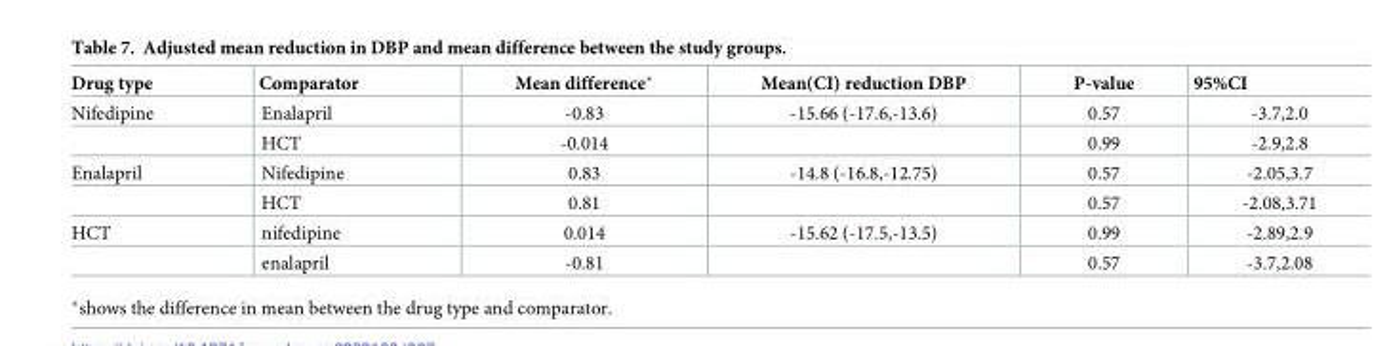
<table><thead><tr><td>Drug type</td><td>Comparator</td><td>Mean difference*</td><td>Mean(CI) reduction DBP</td><td>P-value</td><td>95%CI</td></tr></thead><tbody><tr><td rowspan="2">Nifedipine</td><td>Enalapril</td><td>-0.83</td><td>-15.66 (-17.6,-13.6)</td><td>0.57</td><td>-3.7,2.0</td></tr><tr><td>HCT</td><td>-0.014</td><td></td><td>0.99</td><td>-2.9,2.8</td></tr><tr><td rowspan="2">Enalapril</td><td>Nifedipine</td><td>0.83</td><td>-14.8 (-16.8,-12.75)</td><td>0.57</td><td>-2.05,3.7</td></tr><tr><td>HCT</td><td>0.81</td><td></td><td>0.57</td><td>-2.08,3.71</td></tr><tr><td rowspan="2">HCT</td><td>nifedipine</td><td>0.014</td><td>-15.62 (-17.5,-13.5)</td><td>0.99</td><td>-2.89,2.9</td></tr><tr><td>enalapril</td><td>-0.81</td><td></td><td>0.57</td><td>-3.7,2.08</td></tr></tbody></table>